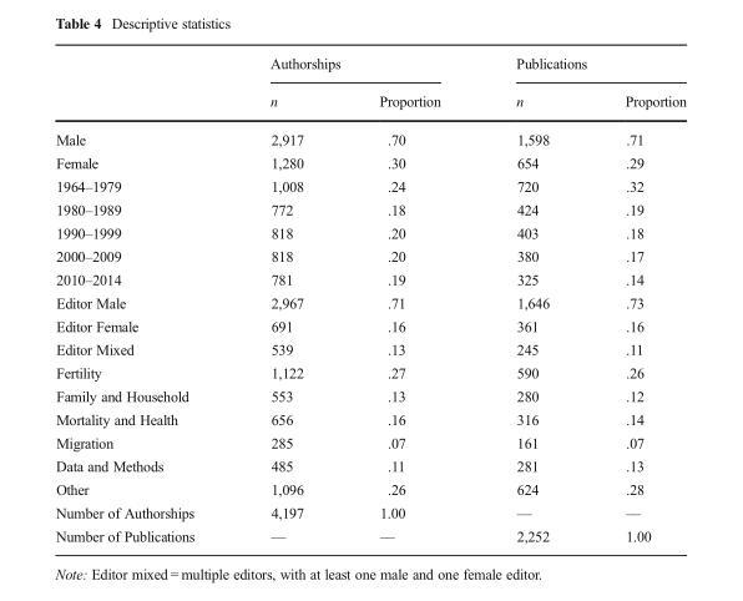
<table><thead><tr><td rowspan="2"></td><td colspan="2">Authorships</td><td colspan="2">Publications</td></tr><tr><td>n</td><td>Proportion</td><td>n</td><td>Proportion</td></tr></thead><tbody><tr><td>Male</td><td>2,917</td><td>.70</td><td>1,598</td><td>.71</td></tr><tr><td>Female</td><td>1,280</td><td>.30</td><td>654</td><td>.29</td></tr><tr><td>1964–1979</td><td>1,008</td><td>.24</td><td>720</td><td>.32</td></tr><tr><td>1980–1989</td><td>772</td><td>.18</td><td>424</td><td>.19</td></tr><tr><td>1990–1999</td><td>818</td><td>.20</td><td>403</td><td>.18</td></tr><tr><td>2000–2009</td><td>818</td><td>.20</td><td>380</td><td>.17</td></tr><tr><td>2010–2014</td><td>781</td><td>.19</td><td>325</td><td>.14</td></tr><tr><td>Editor Male</td><td>2,967</td><td>.71</td><td>1,646</td><td>.73</td></tr><tr><td>Editor Female</td><td>691</td><td>.16</td><td>361</td><td>.16</td></tr><tr><td>Editor Mixed</td><td>539</td><td>.13</td><td>245</td><td>.11</td></tr><tr><td>Fertility</td><td>1,122</td><td>.27</td><td>590</td><td>.26</td></tr><tr><td>Family and Household</td><td>553</td><td>.13</td><td>280</td><td>.12</td></tr><tr><td>Mortality and Health</td><td>656</td><td>.16</td><td>316</td><td>.14</td></tr><tr><td>Migration</td><td>285</td><td>.07</td><td>161</td><td>.07</td></tr><tr><td>Data and Methods</td><td>485</td><td>.11</td><td>281</td><td>.13</td></tr><tr><td>Other</td><td>1,096</td><td>.26</td><td>624</td><td>.28</td></tr><tr><td>Number of Authorships</td><td>4,197</td><td>1.00</td><td>––</td><td>––</td></tr><tr><td>Number of Publications</td><td>––</td><td>––</td><td>2,252</td><td>1.00</td></tr></tbody></table>